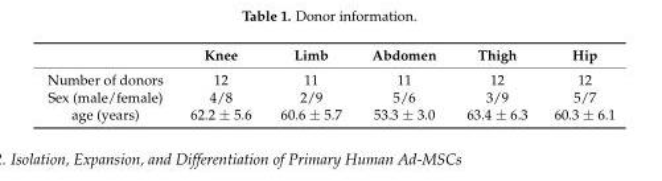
<table><thead><tr><td></td><td>Knee</td><td>Limb</td><td>Abdomen</td><td>Thigh</td><td>Hip</td></tr></thead><tbody><tr><td>Number of donors</td><td>12</td><td>11</td><td>11</td><td>12</td><td>12</td></tr><tr><td>Sex (male/female)</td><td>4/8</td><td>2/9</td><td>5/6</td><td>3/9</td><td>5/7</td></tr><tr><td>age (years)</td><td>62.2 ± 5.6</td><td>60.6 ± 5.7</td><td>53.3 ± 3.0</td><td>63.4 ± 6.3</td><td>60.3 ± 6.1</td></tr></tbody></table>